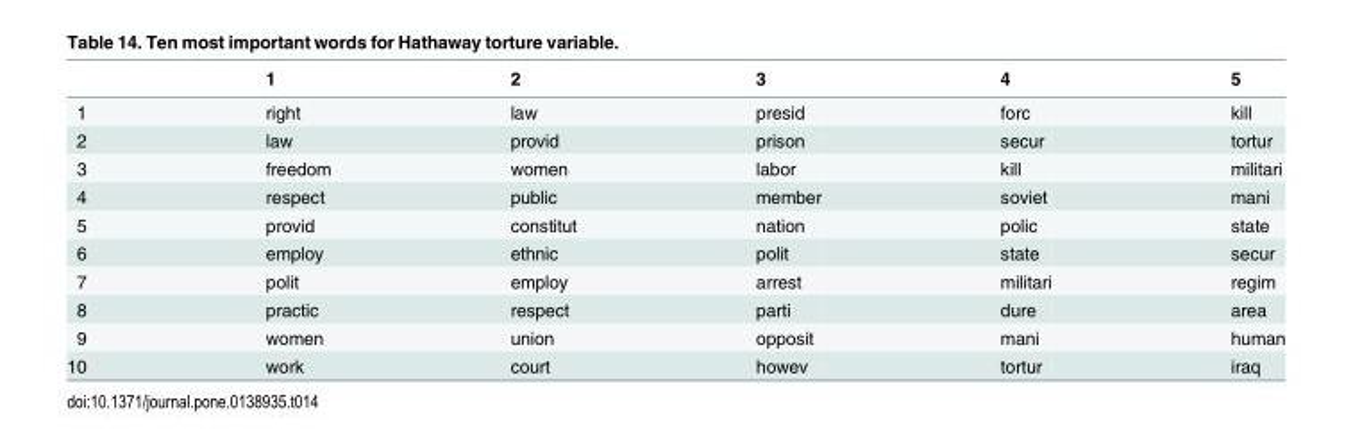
<table><thead><tr><td></td><td>1</td><td>2</td><td>3</td><td>4</td><td>5</td></tr></thead><tbody><tr><td>1</td><td>right</td><td>law</td><td>presid</td><td>forc</td><td>kill</td></tr><tr><td>2</td><td>law</td><td>provid</td><td>prison</td><td>secur</td><td>tortur</td></tr><tr><td>3</td><td>freedom</td><td>women</td><td>labor</td><td>kill</td><td>militari</td></tr><tr><td>4</td><td>respect</td><td>public</td><td>member</td><td>soviet</td><td>mani</td></tr><tr><td>5</td><td>provid</td><td>constitut</td><td>nation</td><td>polic</td><td>state</td></tr><tr><td>6</td><td>employ</td><td>ethnic</td><td>polit</td><td>state</td><td>secur</td></tr><tr><td>7</td><td>polit</td><td>employ</td><td>arrest</td><td>militari</td><td>regim</td></tr><tr><td>8</td><td>practic</td><td>respect</td><td>parti</td><td>dure</td><td>area</td></tr><tr><td>9</td><td>women</td><td>union</td><td>opposit</td><td>mani</td><td>human</td></tr><tr><td>10</td><td>work</td><td>court</td><td>howev</td><td>tortur</td><td>iraq</td></tr></tbody></table>